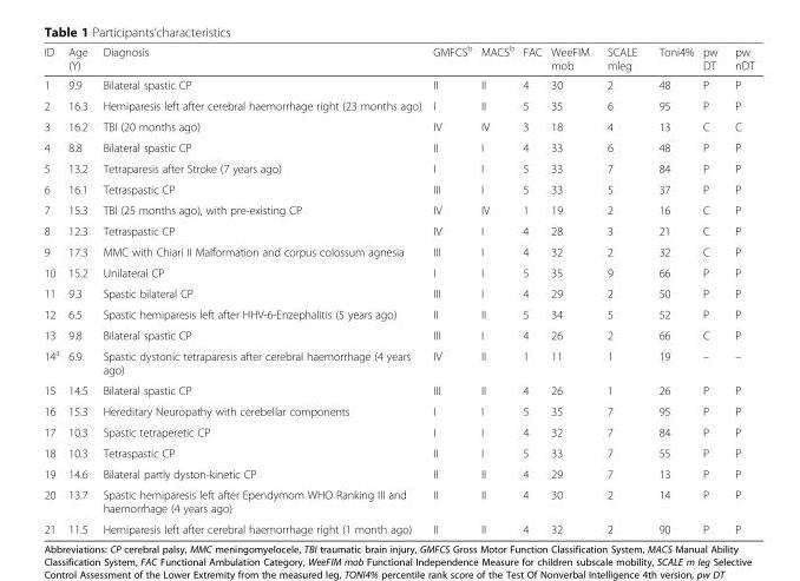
<table><thead><tr><td>ID</td><td>Age (Y)</td><td>Diagnosis</td><td>GMFCS<sup>b</sup></td><td>MACS<sup>b</sup></td><td>FAC</td><td>WeeFIM mob</td><td>SCALE mleg</td><td>Toni4%</td><td>pw DT</td><td>pw nDT</td></tr></thead><tbody><tr><td>1</td><td>9.9</td><td>Bilateral spastic CP</td><td>II</td><td>II</td><td>4</td><td>30</td><td>2</td><td>48</td><td>P</td><td>P</td></tr><tr><td>2</td><td>16.3</td><td>Hemiparesis left after cerebral haemorrhage right (23 months ago)</td><td>I</td><td>II</td><td>5</td><td>35</td><td>6</td><td>95</td><td>P</td><td>P</td></tr><tr><td>3</td><td>16.2</td><td>TBI (20 months ago)</td><td>IV</td><td>IV</td><td>3</td><td>18</td><td>4</td><td>13</td><td>C</td><td>C</td></tr><tr><td>4</td><td>8.8</td><td>Bilateral spastic CP</td><td>II</td><td>I</td><td>4</td><td>33</td><td>6</td><td>48</td><td>P</td><td>P</td></tr><tr><td>5</td><td>13.2</td><td>Tetraparesis after Stroke (7 years ago)</td><td>I</td><td>I</td><td>5</td><td>33</td><td>7</td><td>84</td><td>P</td><td>P</td></tr><tr><td>6</td><td>16.1</td><td>Tetraspastic CP</td><td>III</td><td>I</td><td>5</td><td>33</td><td>5</td><td>37</td><td>P</td><td>P</td></tr><tr><td>7</td><td>15.3</td><td>TBI (25 months ago), with pre-existing CP</td><td>IV</td><td>IV</td><td>1</td><td>19</td><td>2</td><td>16</td><td>C</td><td>P</td></tr><tr><td>8</td><td>12.3</td><td>Tetraspastic CP</td><td>IV</td><td>I</td><td>4</td><td>28</td><td>3</td><td>21</td><td>C</td><td>P</td></tr><tr><td>9</td><td>17.3</td><td>MMC with Chiari II Malformation and corpus colossum agnesia</td><td>III</td><td>I</td><td>4</td><td>32</td><td>2</td><td>32</td><td>C</td><td>P</td></tr><tr><td>10</td><td>15.2</td><td>Unilateral CP</td><td>I</td><td>I</td><td>5</td><td>35</td><td>9</td><td>66</td><td>P</td><td>P</td></tr><tr><td>11</td><td>9.3</td><td>Spastic bilateral CP</td><td>III</td><td>I</td><td>4</td><td>29</td><td>2</td><td>50</td><td>P</td><td>P</td></tr><tr><td>12</td><td>6.5</td><td>Spastic hemiparesis left after HHV-6-Enzephalitis (5 years ago)</td><td>II</td><td>II</td><td>5</td><td>34</td><td>5</td><td>52</td><td>P</td><td>P</td></tr><tr><td>13</td><td>9.8</td><td>Bilateral spastic CP</td><td>III</td><td>I</td><td>4</td><td>26</td><td>2</td><td>66</td><td>C</td><td>P</td></tr><tr><td>14<sup>a</sup></td><td>6.9</td><td>Spastic dystonic tetraparesis after cerebral haemorrhage (4 years ago)</td><td>IV</td><td>II</td><td>1</td><td>11</td><td>1</td><td>19</td><td>–</td><td>–</td></tr><tr><td>15</td><td>14.5</td><td>Bilateral spastic CP</td><td>III</td><td>II</td><td>4</td><td>26</td><td>1</td><td>26</td><td>P</td><td>P</td></tr><tr><td>16</td><td>15.3</td><td>Hereditary Neuropathy with cerebellar components</td><td>I</td><td>I</td><td>5</td><td>35</td><td>7</td><td>95</td><td>P</td><td>P</td></tr><tr><td>17</td><td>10.3</td><td>Spastic tetraperetic CP</td><td>I</td><td>I</td><td>4</td><td>32</td><td>7</td><td>84</td><td>P</td><td>P</td></tr><tr><td>18</td><td>10.3</td><td>Tetraspastic CP</td><td>II</td><td>I</td><td>5</td><td>33</td><td>7</td><td>55</td><td>P</td><td>P</td></tr><tr><td>19</td><td>14.6</td><td>Bilateral partly dyston-kinetic CP</td><td>II</td><td>II</td><td>4</td><td>29</td><td>7</td><td>13</td><td>P</td><td>P</td></tr><tr><td>20</td><td>13.7</td><td>Spastic hemiparesis left after Ependymom WHO Ranking III and haemorrhage (4 years ago)</td><td>II</td><td>II</td><td>4</td><td>30</td><td>2</td><td>14</td><td>P</td><td>P</td></tr><tr><td>21</td><td>11.5</td><td>Hemiparesis left after cerebral haemorrhage right (1 month ago)</td><td>II</td><td>II</td><td>4</td><td>32</td><td>2</td><td>90</td><td>P</td><td>P</td></tr></tbody></table>